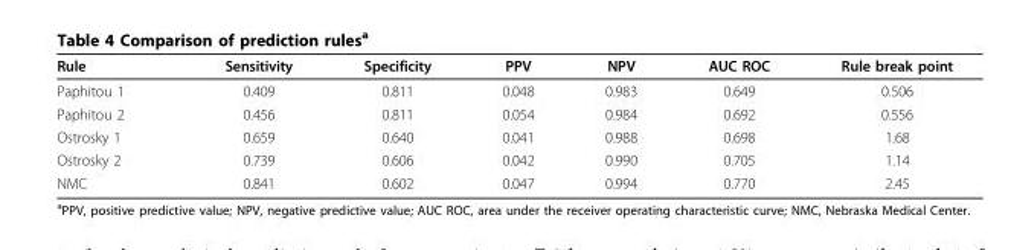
<table><thead><tr><td>Rule</td><td>Sensitivity</td><td>Specificity</td><td>PPV</td><td>NPV</td><td>AUC ROC</td><td>Rule break point</td></tr></thead><tbody><tr><td>Paphitou 1</td><td>0.409</td><td>0.811</td><td>0.048</td><td>0.983</td><td>0.649</td><td>0.506</td></tr><tr><td>Paphitou 2</td><td>0.456</td><td>0.811</td><td>0.054</td><td>0.984</td><td>0.692</td><td>0.556</td></tr><tr><td>Ostrosky 1</td><td>0.659</td><td>0.640</td><td>0.041</td><td>0.988</td><td>0.698</td><td>1.68</td></tr><tr><td>Ostrosky 2</td><td>0.739</td><td>0.606</td><td>0.042</td><td>0.990</td><td>0.705</td><td>1.14</td></tr><tr><td>NMC</td><td>0.841</td><td>0.602</td><td>0.047</td><td>0.994</td><td>0.770</td><td>2.45</td></tr></tbody></table>